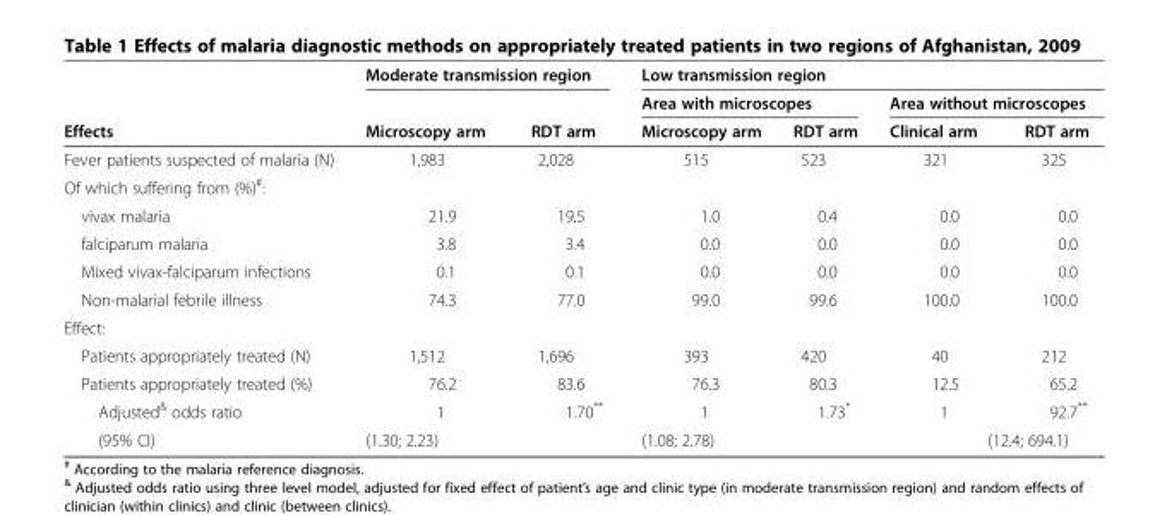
<table><thead><tr><td rowspan="3">Effects</td><td colspan="2">Moderate transmission region</td><td colspan="4">Low transmission region</td></tr><tr><td rowspan="2">Microscopy arm</td><td rowspan="2">RDT arm</td><td colspan="2">Area with microscopes</td><td colspan="2">Area without microscopes</td></tr><tr><td>Microscopy arm</td><td>RDT arm</td><td>Clinical arm</td><td>RDT arm</td></tr></thead><tbody><tr><td>Fever patients suspected of malaria (N)</td><td>1,983</td><td>2,028</td><td>515</td><td>523</td><td>321</td><td>325</td></tr><tr><td colspan="7">Of which suffering from (%)<sup>#</sup>:</td></tr><tr><td>vivax malaria</td><td>21.9</td><td>19.5</td><td>1.0</td><td>0.4</td><td>0.0</td><td>0.0</td></tr><tr><td>falciparum malaria</td><td>3.8</td><td>3.4</td><td>0.0</td><td>0.0</td><td>0.0</td><td>0.0</td></tr><tr><td>Mixed vivax-falciparum infections</td><td>0.1</td><td>0.1</td><td>0.0</td><td>0.0</td><td>0.0</td><td>0.0</td></tr><tr><td>Non-malarial febrile illness</td><td>74.3</td><td>77.0</td><td>99.0</td><td>99.6</td><td>100.0</td><td>100.0</td></tr><tr><td colspan="7">Effect:</td></tr><tr><td>Patients appropriately treated (N)</td><td>1,512</td><td>1,696</td><td>393</td><td>420</td><td>40</td><td>212</td></tr><tr><td>Patients appropriately treated (%)</td><td>76.2</td><td>83.6</td><td>76.3</td><td>80.3</td><td>12.5</td><td>65.2</td></tr><tr><td>Adjusted<sup>&amp;</sup> odds ratio</td><td>1</td><td>1.70**</td><td>1</td><td>1.73*</td><td>1</td><td>92.7**</td></tr><tr><td>(95% CI)</td><td colspan="2">(1.30; 2.23)</td><td colspan="2">(1.08; 2.78)</td><td></td><td>(12.4; 694.1)</td></tr></tbody></table>